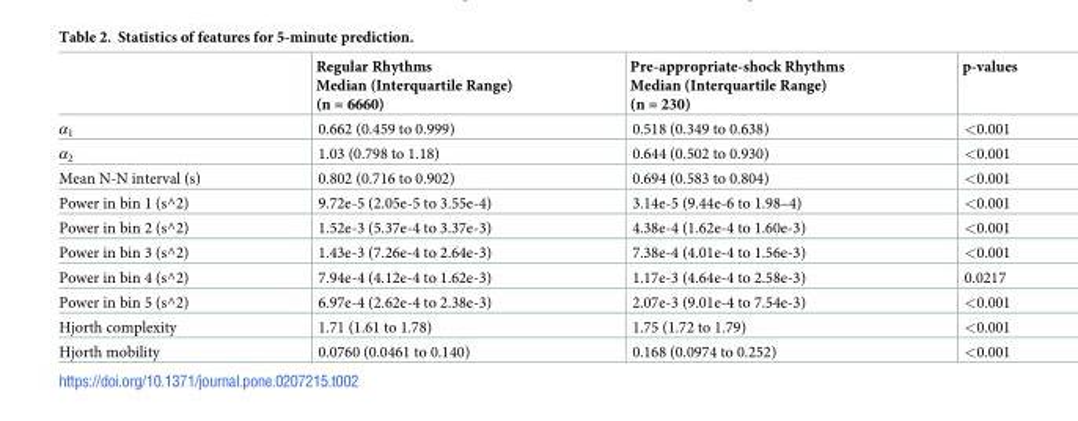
<table><thead><tr><td></td><td>Regular Rhythms Median (Interquartile Range) (n = 6660)</td><td>Pre-appropriate-shock Rhythms Median (Interquartile Range) (n = 230)</td><td>p-values</td></tr></thead><tbody><tr><td>α<sub>1</sub></td><td>0.662 (0.459 to 0.999)</td><td>0.518 (0.349 to 0.638)</td><td>&lt;0.001</td></tr><tr><td>α<sub>2</sub></td><td>1.03 (0.798 to 1.18)</td><td>0.644 (0.502 to 0.930)</td><td>&lt;0.001</td></tr><tr><td>Mean N-N interval (s)</td><td>0.802 (0.716 to 0.902)</td><td>0.694 (0.583 to 0.804)</td><td>&lt;0.001</td></tr><tr><td>Power in bin 1 (s^2)</td><td>9.72e-5 (2.05e-5 to 3.55e-4)</td><td>3.14e-5 (9.44e-6 to 1.98–4)</td><td>&lt;0.001</td></tr><tr><td>Power in bin 2 (s^2)</td><td>1.52e-3 (5.37e-4 to 3.37e-3)</td><td>4.38e-4 (1.62e-4 to 1.60e-3)</td><td>&lt;0.001</td></tr><tr><td>Power in bin 3 (s^2)</td><td>1.43e-3 (7.26e-4 to 2.64e-3)</td><td>7.38e-4 (4.01e-4 to 1.56e-3)</td><td>&lt;0.001</td></tr><tr><td>Power in bin 4 (s^2)</td><td>7.94e-4 (4.12e-4 to 1.62e-3)</td><td>1.17e-3 (4.64e-4 to 2.58e-3)</td><td>0.0217</td></tr><tr><td>Power in bin 5 (s^2)</td><td>6.97e-4 (2.62e-4 to 2.38e-3)</td><td>2.07e-3 (9.01e-4 to 7.54e-3)</td><td>&lt;0.001</td></tr><tr><td>Hjorth complexity</td><td>1.71 (1.61 to 1.78)</td><td>1.75 (1.72 to 1.79)</td><td>&lt;0.001</td></tr><tr><td>Hjorth mobility</td><td>0.0760 (0.0461 to 0.140)</td><td>0.168 (0.0974 to 0.252)</td><td>&lt;0.001</td></tr></tbody></table>